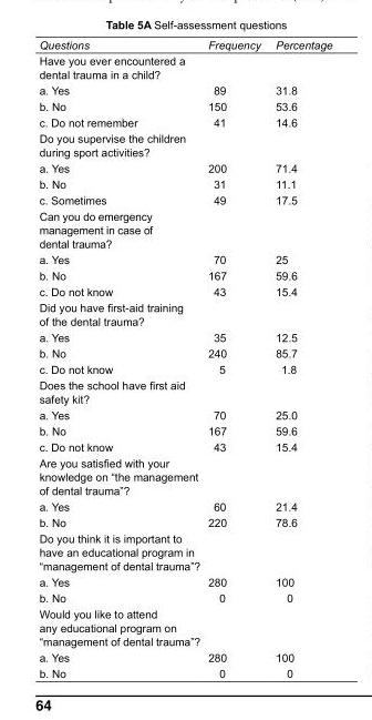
<table><tbody><tr><td>Questions</td><td>Frequency</td><td>Percentage</td></tr><tr><td colspan="3">Have you ever encountered a dental trauma in a child?</td></tr><tr><td>a. Yes</td><td>89</td><td>31.8</td></tr><tr><td>b. No</td><td>150</td><td>53.6</td></tr><tr><td>c. Do not remember</td><td>41</td><td>14.6</td></tr><tr><td colspan="3">Do you supervise the children during sport activities?</td></tr><tr><td>a. Yes</td><td>200</td><td>71.4</td></tr><tr><td>b. No</td><td>31</td><td>11.1</td></tr><tr><td>c. Sometimes</td><td>49</td><td>17.5</td></tr><tr><td colspan="3">Can you do emergency management in case of dental trauma?</td></tr><tr><td>a. Yes</td><td>70</td><td>25</td></tr><tr><td>b. No</td><td>167</td><td>59.6</td></tr><tr><td>c. Do not know</td><td>43</td><td>15.4</td></tr><tr><td colspan="3">Did you have first-aid training of the dental trauma?</td></tr><tr><td>a. Yes</td><td>35</td><td>12.5</td></tr><tr><td>b. No</td><td>240</td><td>85.7</td></tr><tr><td>c. Do not know</td><td>5</td><td>1.8</td></tr><tr><td colspan="3">Does the school have first aid safety kit?</td></tr><tr><td>a. Yes</td><td>70</td><td>25.0</td></tr><tr><td>b. No</td><td>167</td><td>59.6</td></tr><tr><td>c. Do not know</td><td>43</td><td>15.4</td></tr><tr><td colspan="3">Are you satisfied with your knowledge on “the management of dental trauma”?</td></tr><tr><td>a. Yes</td><td>60</td><td>21.4</td></tr><tr><td>b. No</td><td>220</td><td>78.6</td></tr><tr><td colspan="3">Do you think it is important to have an educational program in “management of dental trauma”?</td></tr><tr><td>a. Yes</td><td>280</td><td>100</td></tr><tr><td>b. No</td><td>0</td><td>0</td></tr><tr><td colspan="3">Would you like to attend any educational program on “management of dental trauma”?</td></tr><tr><td>a. Yes</td><td>280</td><td>100</td></tr><tr><td>b. No</td><td>0</td><td>0</td></tr></tbody></table>